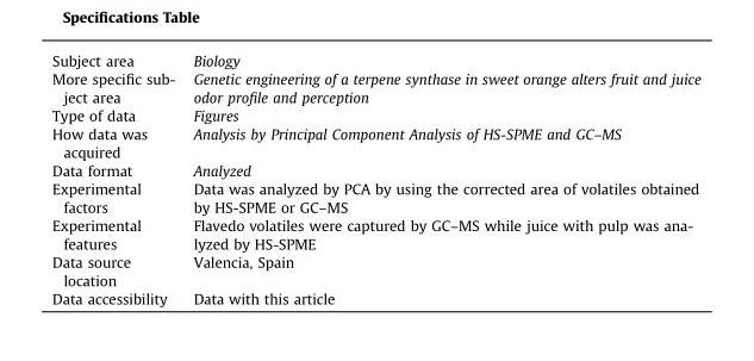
<table><tbody><tr><td>Subject area</td><td>Biology</td></tr><tr><td>More specific sub- ject area</td><td>Genetic engineering of a terpene synthase in sweet orange alters fruit and juice odor profile and perception</td></tr><tr><td>Type of data</td><td>Figures</td></tr><tr><td>How data was acquired</td><td>Analysis by Principal Component Analysis of HS-SPME and GC–MS</td></tr><tr><td>Data format</td><td>Analyzed</td></tr><tr><td>Experimental factors</td><td>Data was analyzed by PCA by using the corrected area of volatiles obtained by HS-SPME or GC–MS</td></tr><tr><td>Experimental features</td><td>Flavedo volatiles were captured by GC–MS while juice with pulp was ana- lyzed by HS-SPME</td></tr><tr><td>Data source location</td><td>Valencia, Spain</td></tr><tr><td>Data accessibility</td><td>Data with this article</td></tr></tbody></table>